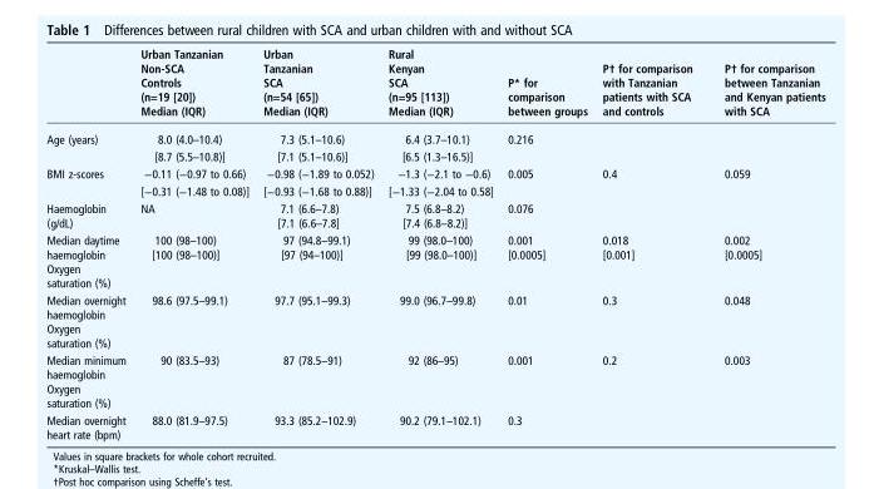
<table><thead><tr><td></td><td>Urban Tanzanian Non-SCA Controls (n=19 [20]) Median (IQR)</td><td>Urban Tanzanian SCA (n=54 [65]) Median (IQR)</td><td>Rural Kenyan SCA (n=95 [113]) Median (IQR)</td><td>P* for comparison between groups</td><td>P† for comparison with Tanzanian patients with SCA and controls</td><td>P† for comparison between Tanzanian and Kenyan patients with SCA</td></tr></thead><tbody><tr><td rowspan="2">Age (years)</td><td>8.0 (4.0–10.4)</td><td>7.3 (5.1–10.6)</td><td>6.4 (3.7–10.1)</td><td>0.216</td><td></td><td></td></tr><tr><td>[8.7 (5.5–10.8)]</td><td>[7.1 (5.1–10.6)]</td><td>[6.5 (1.3–16.5)]</td><td></td><td></td><td></td></tr><tr><td rowspan="2">BMI z-scores</td><td>−0.11 (−0.97 to 0.66)</td><td>−0.98 (−1.89 to 0.052)</td><td>−1.3 (−2.1 to −0.6)</td><td>0.005</td><td>0.4</td><td>0.059</td></tr><tr><td>[−0.31 (−1.48 to 0.08)]</td><td>[−0.93 (−1.68 to 0.88)]</td><td>[−1.33 (−2.04 to 0.58]</td><td></td><td></td><td></td></tr><tr><td>Haemoglobin (g/dL)</td><td>NA</td><td>7.1 (6.6–7.8) [7.1 (6.6–7.8]</td><td>7.5 (6.8–8.2) [7.4 (6.8–8.2)]</td><td>0.076</td><td></td><td></td></tr><tr><td>Median daytime haemoglobin Oxygen saturation (%)</td><td>100 (98–100) [100 (98–100)]</td><td>97 (94.8–99.1) [97 (94–100)]</td><td>99 (98.0–100) [99 (98.0–100)]</td><td>0.001 [0.0005]</td><td>0.018 [0.001]</td><td>0.002 [0.0005]</td></tr><tr><td>Median overnight haemoglobin Oxygen saturation (%)</td><td>98.6 (97.5–99.1)</td><td>97.7 (95.1–99.3)</td><td>99.0 (96.7–99.8)</td><td>0.01</td><td>0.3</td><td>0.048</td></tr><tr><td>Median minimum haemoglobin Oxygen saturation (%)</td><td>90 (83.5–93)</td><td>87 (78.5–91)</td><td>92 (86–95)</td><td>0.001</td><td>0.2</td><td>0.003</td></tr><tr><td>Median overnight heart rate (bpm)</td><td>88.0 (81.9–97.5)</td><td>93.3 (85.2–102.9)</td><td>90.2 (79.1–102.1)</td><td>0.3</td><td></td><td></td></tr></tbody></table>